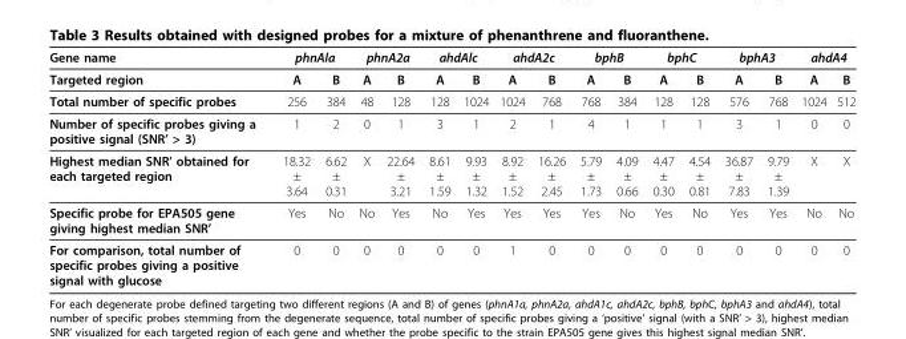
<table><thead><tr><td rowspan="2">Gene name Targeted region</td><td colspan="2">phnAla</td><td colspan="2">phnA2a</td><td colspan="2">ahdAlc</td><td colspan="2">ahdA2c</td><td colspan="2">bphB</td><td colspan="2">bphC</td><td colspan="2">bphA3</td><td colspan="2">ahdA4</td></tr><tr><td>A</td><td>B</td><td>A</td><td>B</td><td>A</td><td>B</td><td>A</td><td>B</td><td>A</td><td>B</td><td>A</td><td>B</td><td>A</td><td>B</td><td>A</td><td>B</td></tr></thead><tbody><tr><td>Total number of specific probes</td><td>256</td><td>384</td><td>48</td><td>128</td><td>128</td><td>1024</td><td>1024</td><td>768</td><td>768</td><td>384</td><td>128</td><td>128</td><td>576</td><td>768</td><td>1024</td><td>512</td></tr><tr><td>Number of specific probes giving a positive signal (SNR’ &gt; 3)</td><td>1</td><td>2</td><td>0</td><td>1</td><td>3</td><td>1</td><td>2</td><td>1</td><td>4</td><td>1</td><td>1</td><td>1</td><td>3</td><td>1</td><td>0</td><td>0</td></tr><tr><td>Highest median SNR’ obtained for each targeted region</td><td>18.32 ± 3.64</td><td>6.62 ± 0.31</td><td>X</td><td>22.64 ± 3.21</td><td>8.61 ± 1.59</td><td>9.93 ± 1.32</td><td>8.92 ± 1.52</td><td>16.26 ± 2.45</td><td>5.79 ± 1.73</td><td>4.09 ± 0.66</td><td>4.47 ± 0.30</td><td>4.54 ± 0.81</td><td>36.87 ± 7.83</td><td>9.79 ± 1.39</td><td>X</td><td>X</td></tr><tr><td>Specific probe for EPA505 gene giving highest median SNR’</td><td>Yes</td><td>No</td><td>No</td><td>Yes</td><td>No</td><td>Yes</td><td>Yes</td><td>Yes</td><td>Yes</td><td>No</td><td>Yes</td><td>No</td><td>Yes</td><td>Yes</td><td>No</td><td>No</td></tr><tr><td>For comparison, total number of specific probes giving a positive signal with glucose</td><td>0</td><td>0</td><td>0</td><td>0</td><td>0</td><td>0</td><td>1</td><td>0</td><td>0</td><td>0</td><td>0</td><td>0</td><td>0</td><td>0</td><td>0</td><td>0</td></tr></tbody></table>